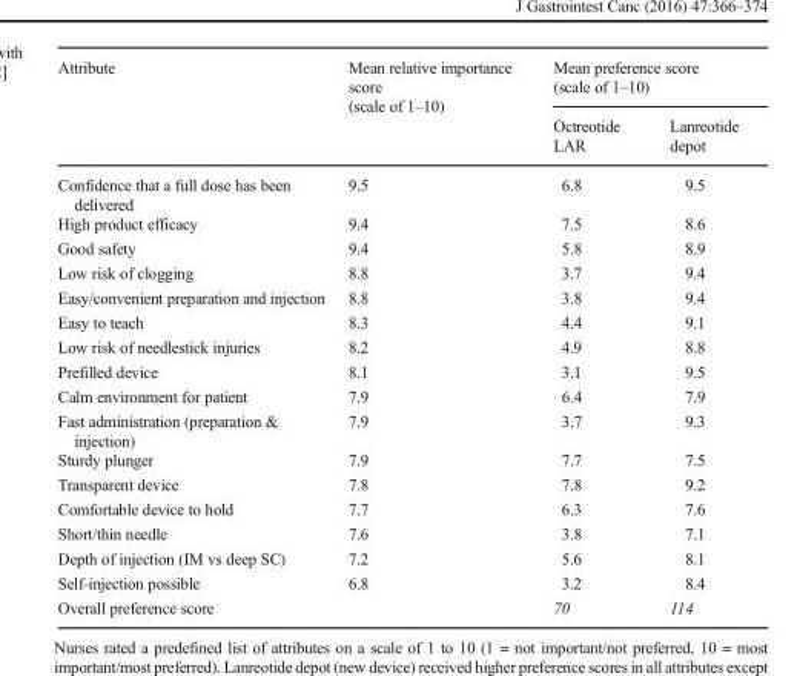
<table><thead><tr><td rowspan="2">Attribute</td><td rowspan="2">Mean relative importance score (scale of 1–10)</td><td colspan="2">Mean preference score (scale of 1–10)</td></tr><tr><td>Octreotide LAR</td><td>Lanreotide depot</td></tr></thead><tbody><tr><td>Confidence that a full dose has been delivered</td><td>9.5</td><td>6.8</td><td>9.5</td></tr><tr><td>High product efficacy</td><td>9.4</td><td>7.5</td><td>8.6</td></tr><tr><td>Good safety</td><td>9.4</td><td>5.8</td><td>8.9</td></tr><tr><td>Low risk of clogging</td><td>8.8</td><td>3.7</td><td>9.4</td></tr><tr><td>Easy/convenient preparation and injection</td><td>8.8</td><td>3.8</td><td>9.4</td></tr><tr><td>Easy to teach</td><td>8.3</td><td>4.4</td><td>9.1</td></tr><tr><td>Low risk of needlestick injuries</td><td>8.2</td><td>4.9</td><td>8.8</td></tr><tr><td>Prefilled device</td><td>8.1</td><td>3.1</td><td>9.5</td></tr><tr><td>Calm environment for patient</td><td>7.9</td><td>6.4</td><td>7.9</td></tr><tr><td>Fast administration (preparation &amp; injection)</td><td>7.9</td><td>3.7</td><td>9.3</td></tr><tr><td>Sturdy plunger</td><td>7.9</td><td>7.7</td><td>7.5</td></tr><tr><td>Transparent device</td><td>7.8</td><td>7.8</td><td>9.2</td></tr><tr><td>Comfortable device to hold</td><td>7.7</td><td>6.3</td><td>7.6</td></tr><tr><td>Short/thin needle</td><td>7.6</td><td>3.8</td><td>7.1</td></tr><tr><td>Depth of injection (IM vs deep SC)</td><td>7.2</td><td>5.6</td><td>8.1</td></tr><tr><td>Self-injection possible</td><td>6.8</td><td>3.2</td><td>8.4</td></tr><tr><td>Overall preference score</td><td></td><td>70</td><td>114</td></tr></tbody></table>